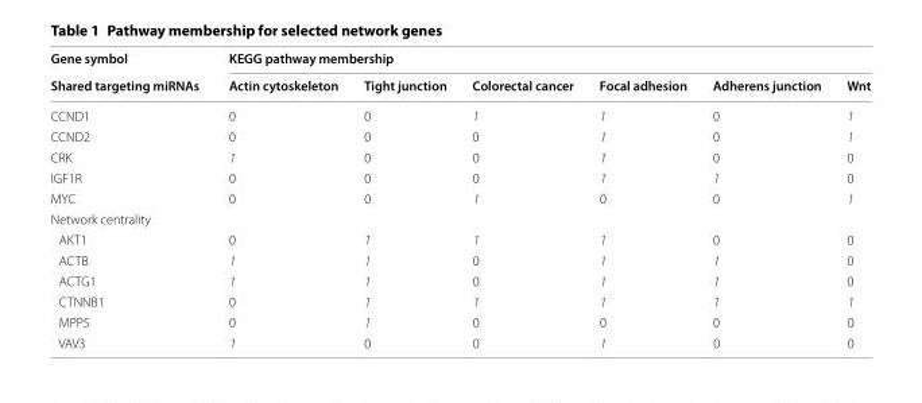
<table><thead><tr><td rowspan="2">Gene symbol Shared targeting miRNAs</td><td colspan="6">KEGG pathway membership</td></tr><tr><td>Actin cytoskeleton</td><td>Tight junction</td><td>Colorectal cancer</td><td>Focal adhesion</td><td>Adherens junction</td><td>Wnt</td></tr></thead><tbody><tr><td>CCND1</td><td>0</td><td>0</td><td>1</td><td>1</td><td>0</td><td>1</td></tr><tr><td>CCND2</td><td>0</td><td>0</td><td>0</td><td>1</td><td>0</td><td>1</td></tr><tr><td>CRK</td><td>1</td><td>0</td><td>0</td><td>1</td><td>0</td><td>0</td></tr><tr><td>IGF1R</td><td>0</td><td>0</td><td>0</td><td>1</td><td>1</td><td>0</td></tr><tr><td>MYC</td><td>0</td><td>0</td><td>1</td><td>0</td><td>0</td><td>1</td></tr><tr><td colspan="7">Network centrality</td></tr><tr><td>AKT1</td><td>0</td><td>1</td><td>1</td><td>1</td><td>0</td><td>0</td></tr><tr><td>ACTB</td><td>1</td><td>1</td><td>0</td><td>1</td><td>1</td><td>0</td></tr><tr><td>ACTG1</td><td>1</td><td>1</td><td>0</td><td>1</td><td>1</td><td>0</td></tr><tr><td>CTNNB1</td><td>0</td><td>1</td><td>1</td><td>1</td><td>1</td><td>1</td></tr><tr><td>MPP5</td><td>0</td><td>1</td><td>0</td><td>0</td><td>0</td><td>0</td></tr><tr><td>VAV3</td><td>1</td><td>0</td><td>0</td><td>1</td><td>0</td><td>0</td></tr></tbody></table>